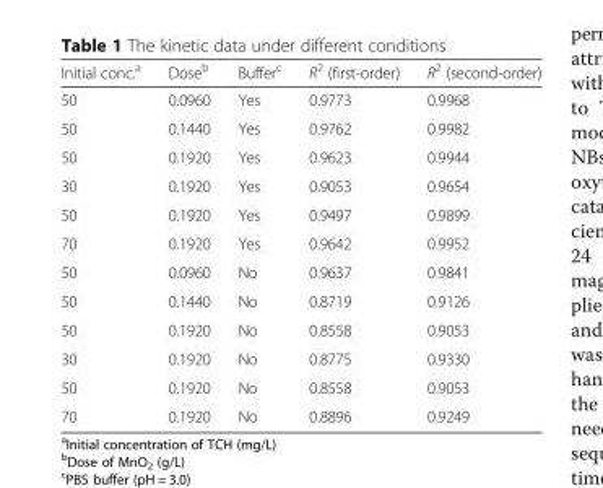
<table><thead><tr><td>Initial conc.<sup>a</sup></td><td>Dose<sup>b</sup></td><td>Buffer<sup>c</sup></td><td>R<sup>2</sup> (first-order)</td><td>R<sup>2</sup> (second-order)</td></tr></thead><tbody><tr><td>50</td><td>0.0960</td><td>Yes</td><td>0.9773</td><td>0.9968</td></tr><tr><td>50</td><td>0.1440</td><td>Yes</td><td>0.9762</td><td>0.9982</td></tr><tr><td>50</td><td>0.1920</td><td>Yes</td><td>0.9623</td><td>0.9944</td></tr><tr><td>30</td><td>0.1920</td><td>Yes</td><td>0.9053</td><td>0.9654</td></tr><tr><td>50</td><td>0.1920</td><td>Yes</td><td>0.9497</td><td>0.9899</td></tr><tr><td>70</td><td>0.1920</td><td>Yes</td><td>0.9642</td><td>0.9952</td></tr><tr><td>50</td><td>0.0960</td><td>No</td><td>0.9637</td><td>0.9841</td></tr><tr><td>50</td><td>0.1440</td><td>No</td><td>0.8719</td><td>0.9126</td></tr><tr><td>50</td><td>0.1920</td><td>No</td><td>0.8558</td><td>0.9053</td></tr><tr><td>30</td><td>0.1920</td><td>No</td><td>0.8775</td><td>0.9330</td></tr><tr><td>50</td><td>0.1920</td><td>No</td><td>0.8558</td><td>0.9053</td></tr><tr><td>70</td><td>0.1920</td><td>No</td><td>0.8896</td><td>0.9249</td></tr></tbody></table>